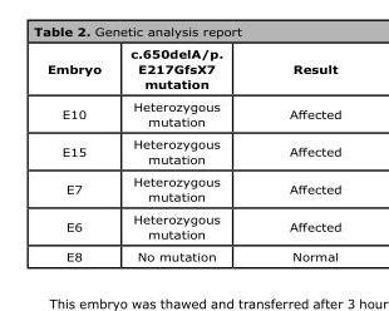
<table><thead><tr><td>Embryo</td><td>c.650delA/p. E217GfsX7 mutation</td><td>Result</td></tr></thead><tbody><tr><td>E10</td><td>Heterozygous mutation</td><td>Affected</td></tr><tr><td>E15</td><td>Heterozygous mutation</td><td>Affected</td></tr><tr><td>E7</td><td>Heterozygous mutation</td><td>Affected</td></tr><tr><td>E6</td><td>Heterozygous mutation</td><td>Affected</td></tr><tr><td>E8</td><td>No mutation</td><td>Normal</td></tr></tbody></table>